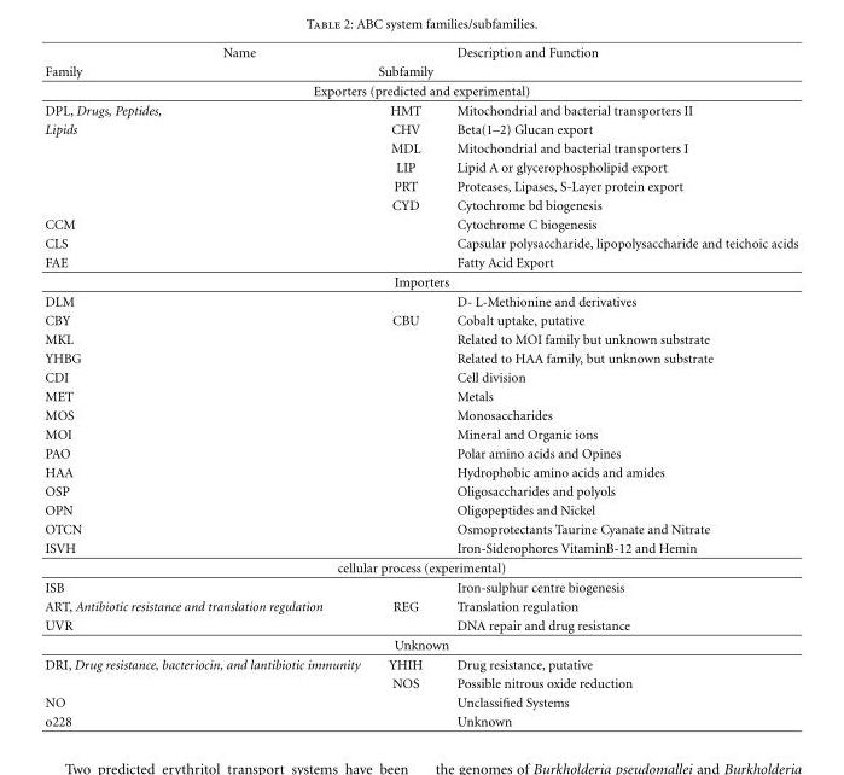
<table><thead><tr><td colspan="2">Name</td><td rowspan="2">Description and Function</td></tr><tr><td>Family</td><td>Subfamily</td></tr></thead><tbody><tr><td colspan="3">Exporters (predicted and experimental)</td></tr><tr><td>DPL, Drugs, Peptides,</td><td>HMT</td><td>Mitochondrial and bacterial transporters II</td></tr><tr><td rowspan="5">Lipids</td><td>CHV</td><td>Beta(1–2) Glucan export</td></tr><tr><td>MDL</td><td>Mitochondrial and bacterial transporters I</td></tr><tr><td>LIP</td><td>Lipid A or glycerophospholipid export</td></tr><tr><td>PRT</td><td>Proteases, Lipases, S-Layer protein export</td></tr><tr><td>CYD</td><td>Cytochrome bd biogenesis</td></tr><tr><td>CCM</td><td></td><td>Cytochrome C biogenesis</td></tr><tr><td>CLS</td><td></td><td>Capsular polysaccharide, lipopolysaccharide and teichoic acids</td></tr><tr><td>FAE</td><td></td><td>Fatty Acid Export</td></tr><tr><td colspan="3">Importers</td></tr><tr><td>DLM</td><td></td><td>D- L-Methionine and derivatives</td></tr><tr><td>CBY</td><td>CBU</td><td>Cobalt uptake, putative</td></tr><tr><td>MKL</td><td></td><td>Related to MOI family but unknown substrate</td></tr><tr><td>YHBG</td><td></td><td>Related to HAA family, but unknown substrate</td></tr><tr><td>CDI</td><td></td><td>Cell division</td></tr><tr><td>MET</td><td></td><td>Metals</td></tr><tr><td>MOS</td><td></td><td>Monosaccharides</td></tr><tr><td>MOI</td><td></td><td>Mineral and Organic ions</td></tr><tr><td>PAO</td><td></td><td>Polar amino acids and Opines</td></tr><tr><td>HAA</td><td></td><td>Hydrophobic amino acids and amides</td></tr><tr><td>OSP</td><td></td><td>Oligosaccharides and polyols</td></tr><tr><td>OPN</td><td></td><td>Oligopeptides and Nickel</td></tr><tr><td>OTCN</td><td></td><td>Osmoprotectants Taurine Cyanate and Nitrate</td></tr><tr><td>ISVH</td><td></td><td>Iron-Siderophores VitaminB-12 and Hemin</td></tr><tr><td colspan="3">cellular process (experimental)</td></tr><tr><td>ISB</td><td></td><td>Iron-sulphur centre biogenesis</td></tr><tr><td>ART, Antibiotic resistance and translation regulation</td><td>REG</td><td>Translation regulation</td></tr><tr><td>UVR</td><td></td><td>DNA repair and drug resistance</td></tr><tr><td colspan="3">Unknown</td></tr><tr><td rowspan="2">DRI, Drug resistance, bacteriocin, and lantibiotic immunity</td><td>YHIH</td><td>Drug resistance, putative</td></tr><tr><td>NOS</td><td>Possible nitrous oxide reduction</td></tr><tr><td>NO</td><td></td><td>Unclassified Systems</td></tr><tr><td>o228</td><td></td><td>Unknown</td></tr></tbody></table>